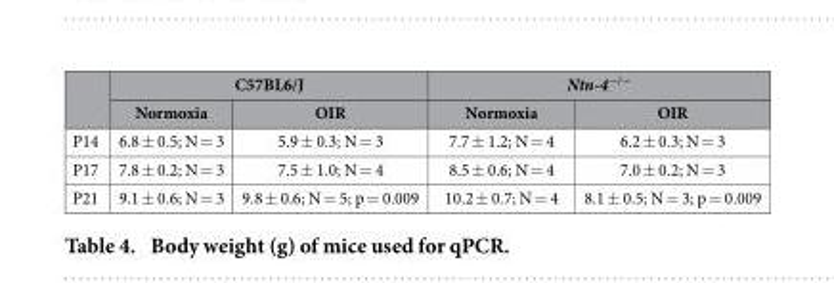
<table><thead><tr><td rowspan="2"></td><td colspan="2">C57BL6/J</td><td colspan="2">Ntn-4<sup>−/−</sup></td></tr><tr><td>Normoxia</td><td>OIR</td><td>Normoxia</td><td>OIR</td></tr></thead><tbody><tr><td>P14</td><td>6.8 ± 0.5; N = 3</td><td>5.9 ± 0.3; N = 3</td><td>7.7 ± 1.2; N = 4</td><td>6.2 ± 0.3; N = 3</td></tr><tr><td>P17</td><td>7.8 ± 0.2; N = 3</td><td>7.5 ± 1.0; N = 4</td><td>8.5 ± 0.6; N = 4</td><td>7.0 ± 0.2; N = 3</td></tr><tr><td>P21</td><td>9.1 ± 0.6; N = 3</td><td>9.8 ± 0.6; N = 5; p = 0.009</td><td>10.2 ± 0.7; N = 4</td><td>8.1 ± 0.5; N = 3; p = 0.009</td></tr></tbody></table>